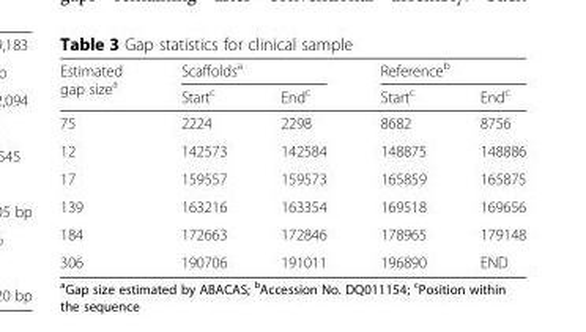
<table><thead><tr><td rowspan="2">Estimated gap size<sup>a</sup></td><td colspan="2">Scaffolds<sup>a</sup></td><td colspan="2">Reference<sup>b</sup></td></tr><tr><td>Start<sup>c</sup></td><td>End<sup>c</sup></td><td>Start<sup>c</sup></td><td>End<sup>c</sup></td></tr></thead><tbody><tr><td>75</td><td>2224</td><td>2298</td><td>8682</td><td>8756</td></tr><tr><td>12</td><td>142573</td><td>142584</td><td>148875</td><td>148886</td></tr><tr><td>17</td><td>159557</td><td>159573</td><td>165859</td><td>165875</td></tr><tr><td>139</td><td>163216</td><td>163354</td><td>169518</td><td>169656</td></tr><tr><td>184</td><td>172663</td><td>172846</td><td>178965</td><td>179148</td></tr><tr><td>306</td><td>190706</td><td>191011</td><td>196890</td><td>END</td></tr></tbody></table>